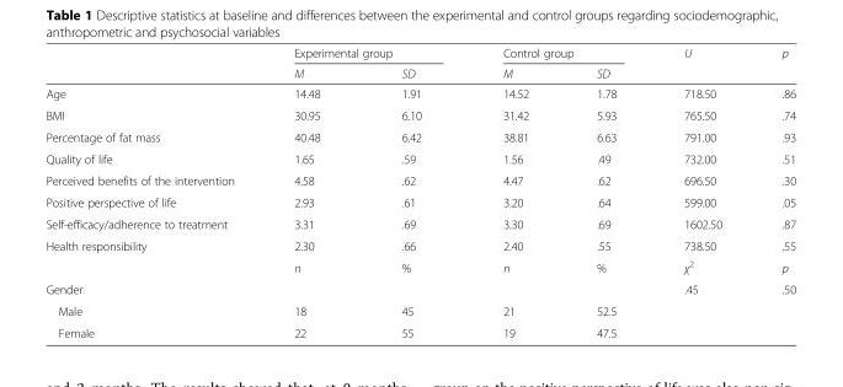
<table><thead><tr><td rowspan="2"></td><td colspan="2">Experimental group</td><td colspan="2">Control group</td><td rowspan="2">U</td><td rowspan="2">p</td></tr><tr><td>M</td><td>SD</td><td>M</td><td>SD</td></tr></thead><tbody><tr><td>Age</td><td>14.48</td><td>1.91</td><td>14.52</td><td>1.78</td><td>718.50</td><td>.86</td></tr><tr><td>BMI</td><td>30.95</td><td>6.10</td><td>31.42</td><td>5.93</td><td>765.50</td><td>.74</td></tr><tr><td>Percentage of fat mass</td><td>40.48</td><td>6.42</td><td>38.81</td><td>6.63</td><td>791.00</td><td>.93</td></tr><tr><td>Quality of life</td><td>1.65</td><td>.59</td><td>1.56</td><td>.49</td><td>732.00</td><td>.51</td></tr><tr><td>Perceived benefits of the intervention</td><td>4.58</td><td>.62</td><td>4.47</td><td>.62</td><td>696.50</td><td>.30</td></tr><tr><td>Positive perspective of life</td><td>2.93</td><td>.61</td><td>3.20</td><td>.64</td><td>599.00</td><td>.05</td></tr><tr><td>Self-efficacy/adherence to treatment</td><td>3.31</td><td>.69</td><td>3.30</td><td>.69</td><td>1602.50</td><td>.87</td></tr><tr><td rowspan="2">Health responsibility</td><td>2.30</td><td>.66</td><td>2.40</td><td>.55</td><td>738.50</td><td>.55</td></tr><tr><td>n</td><td>%</td><td>n</td><td>%</td><td>χ<sup>2</sup></td><td>p</td></tr><tr><td>Gender</td><td></td><td></td><td></td><td></td><td>.45</td><td>.50</td></tr><tr><td>Male</td><td>18</td><td>45</td><td>21</td><td>52.5</td><td></td><td></td></tr><tr><td>Female</td><td>22</td><td>55</td><td>19</td><td>47.5</td><td></td><td></td></tr></tbody></table>